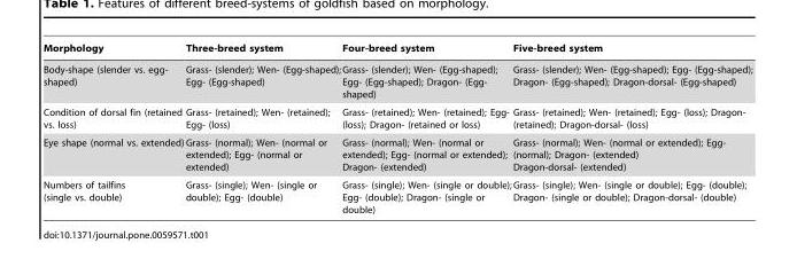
<table><thead><tr><td>Morphology</td><td>Three-breed system</td><td>Four-breed system</td><td>Five-breed system</td></tr></thead><tbody><tr><td>Body-shape (slender vs. egg- shaped)</td><td>Grass- (slender); Wen- (Egg-shaped); Egg- (Egg-shaped)</td><td>Grass- (slender); Wen- (Egg-shaped); Egg- (Egg-shaped); Dragon- (Egg- shaped)</td><td>Grass- (slender); Wen- (Egg-shaped); Egg- (Egg-shaped); Dragon- (Egg-shaped); Dragon-dorsal- (Egg-shaped)</td></tr><tr><td>Condition of dorsal fin (retained vs. loss)</td><td>Grass- (retained); Wen- (retained); Egg- (loss)</td><td>Grass- (retained); Wen- (retained); Egg- (loss); Dragon- (retained or loss)</td><td>Grass- (retained); Wen- (retained); Egg- (loss); Dragon- (retained); Dragon-dorsal- (loss)</td></tr><tr><td>Eye shape (normal vs. extended)</td><td>Grass- (normal); Wen- (normal or extended); Egg- (normal or extended)</td><td>Grass- (normal); Wen- (normal or extended); Egg- (normal or extended); Dragon- (extended)</td><td>Grass- (normal); Wen- (normal or extended); Egg- (normal); Dragon- (extended) Dragon-dorsal- (extended)</td></tr><tr><td>Numbers of tailfins (single vs. double)</td><td>Grass- (single); Wen- (single or double); Egg- (double)</td><td>Grass- (single); Wen- (single or double); Egg- (double); Dragon- (single or double)</td><td>Grass- (single); Wen- (single or double); Egg- (double); Dragon- (single or double); Dragon-dorsal- (double)</td></tr></tbody></table>